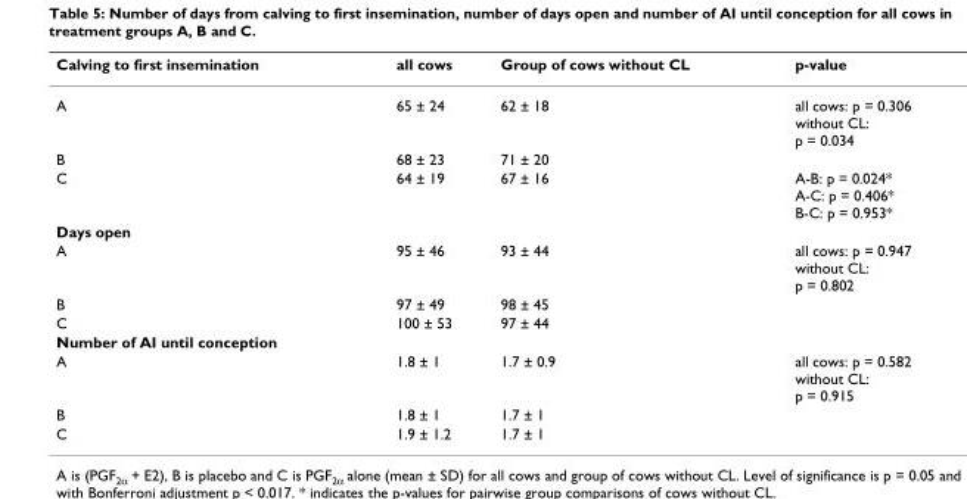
<table><thead><tr><td>Calving to first insemination</td><td>all cows</td><td>Group of cows without CL</td><td>p-value</td></tr></thead><tbody><tr><td>A</td><td>65 ± 24</td><td>62 ± 18</td><td>all cows: p = 0.306 without CL: p = 0.034</td></tr><tr><td>B</td><td>68 ± 23</td><td>71 ± 20</td><td></td></tr><tr><td>C</td><td>64 ± 19</td><td>67 ± 16</td><td>A-B: p = 0.024* A-C: p = 0.406* B-C: p = 0.953*</td></tr><tr><td colspan="4">Days open</td></tr><tr><td>A</td><td>95 ± 46</td><td>93 ± 44</td><td>all cows: p = 0.947 without CL: p = 0.802</td></tr><tr><td>B</td><td>97 ± 49</td><td>98 ± 45</td><td></td></tr><tr><td>C</td><td>100 ± 53</td><td>97 ± 44</td><td></td></tr><tr><td colspan="4">Number of AI until conception</td></tr><tr><td>A</td><td>1.8 ± 1</td><td>1.7 ± 0.9</td><td>all cows: p = 0.582 without CL: p = 0.915</td></tr><tr><td>B</td><td>1.8 ± 1</td><td>1.7 ± 1</td><td></td></tr><tr><td>C</td><td>1.9 ± 1.2</td><td>1.7 ± 1</td><td></td></tr></tbody></table>